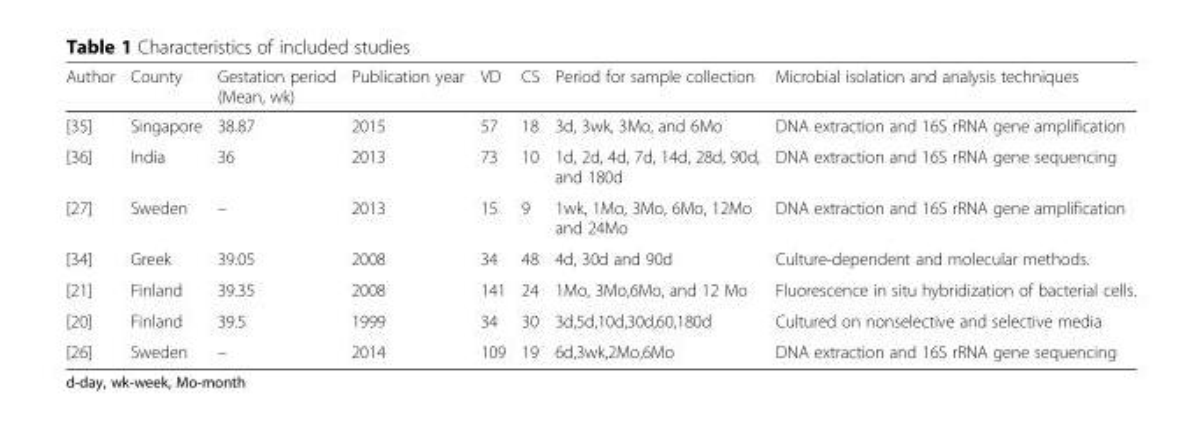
<table><thead><tr><td>Author</td><td>County</td><td>Gestation period (Mean, wk)</td><td>Publication year</td><td>VD</td><td>CS</td><td>Period for sample collection</td><td>Microbial isolation and analysis techniques</td></tr></thead><tbody><tr><td>[35]</td><td>Singapore</td><td>38.87</td><td>2015</td><td>57</td><td>18</td><td>3d, 3wk, 3Mo, and 6Mo</td><td>DNA extraction and 16S rRNA gene amplification</td></tr><tr><td>[36]</td><td>India</td><td>36</td><td>2013</td><td>73</td><td>10</td><td>1d, 2d, 4d, 7d, 14d, 28d, 90d, and 180d</td><td>DNA extraction and 16S rRNA gene sequencing</td></tr><tr><td>[27]</td><td>Sweden</td><td>–</td><td>2013</td><td>15</td><td>9</td><td>1wk, 1Mo, 3Mo, 6Mo, 12Mo and 24Mo</td><td>DNA extraction and 16S rRNA gene amplification</td></tr><tr><td>[34]</td><td>Greek</td><td>39.05</td><td>2008</td><td>34</td><td>48</td><td>4d, 30d and 90d</td><td>Culture-dependent and molecular methods.</td></tr><tr><td>[21]</td><td>Finland</td><td>39.35</td><td>2008</td><td>141</td><td>24</td><td>1Mo, 3Mo,6Mo, and 12 Mo</td><td>Fluorescence in situ hybridization of bacterial cells.</td></tr><tr><td>[20]</td><td>Finland</td><td>39.5</td><td>1999</td><td>34</td><td>30</td><td>3d,5d,10d,30d,60,180d</td><td>Cultured on nonselective and selective media</td></tr><tr><td>[26]</td><td>Sweden</td><td>–</td><td>2014</td><td>109</td><td>19</td><td>6d,3wk,2Mo,6Mo</td><td>DNA extraction and 16S rRNA gene sequencing</td></tr></tbody></table>